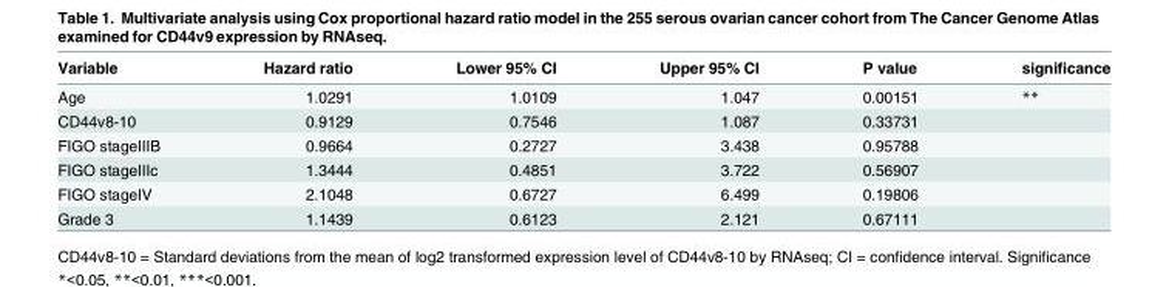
<table><thead><tr><td>Variable</td><td>Hazard ratio</td><td>Lower 95% CI</td><td>Upper 95% CI</td><td>P value</td><td>significance</td></tr></thead><tbody><tr><td>Age</td><td>1.0291</td><td>1.0109</td><td>1.047</td><td>0.00151</td><td>**</td></tr><tr><td>CD44v8-10</td><td>0.9129</td><td>0.7546</td><td>1.087</td><td>0.33731</td><td></td></tr><tr><td>FIGO stageIIIB</td><td>0.9664</td><td>0.2727</td><td>3.438</td><td>0.95788</td><td></td></tr><tr><td>FIGO stageIIIc</td><td>1.3444</td><td>0.4851</td><td>3.722</td><td>0.56907</td><td></td></tr><tr><td>FIGO stageIV</td><td>2.1048</td><td>0.6727</td><td>6.499</td><td>0.19806</td><td></td></tr><tr><td>Grade 3</td><td>1.1439</td><td>0.6123</td><td>2.121</td><td>0.67111</td><td></td></tr></tbody></table>